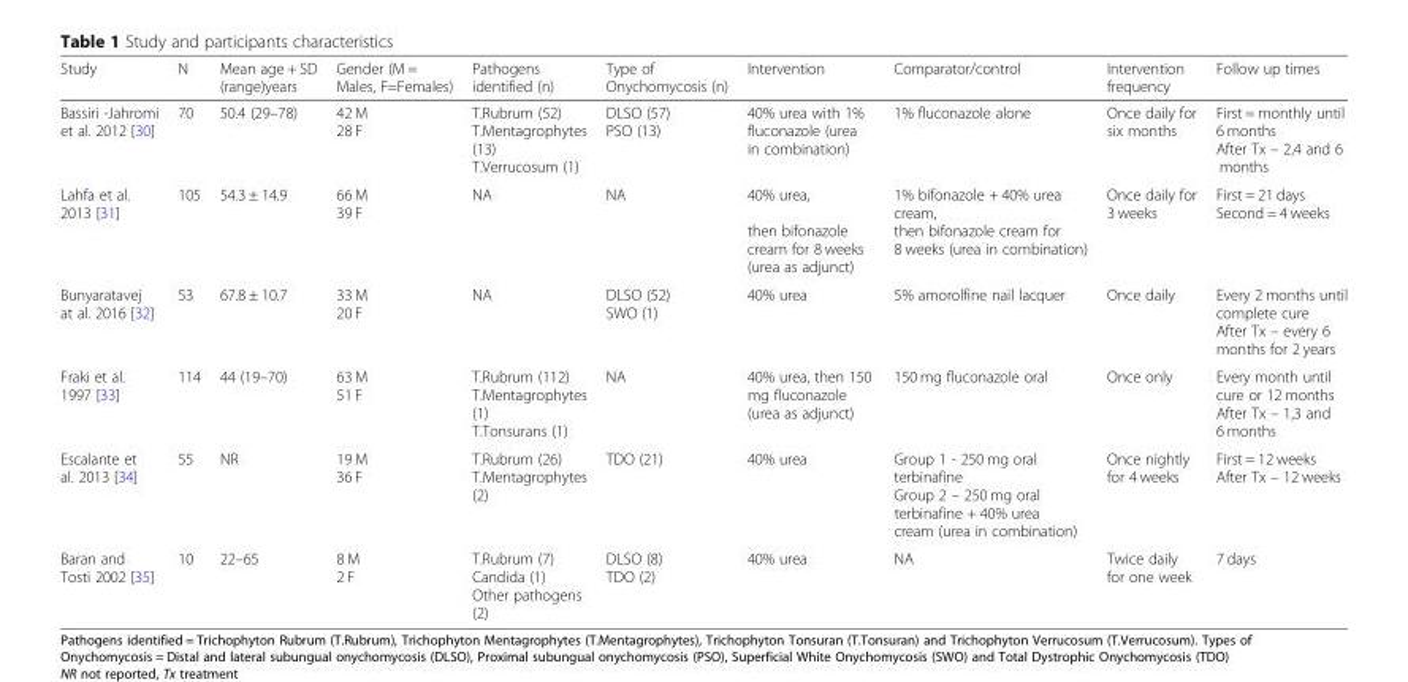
<table><thead><tr><td>Study</td><td>N</td><td>Mean age + SD (range)years</td><td>Gender (M = Males, F=Females)</td><td>Pathogens identified (n)</td><td>Type of Onychomycosis (n)</td><td>Intervention</td><td>Comparator/control</td><td>Intervention frequency</td><td>Follow up times</td></tr></thead><tbody><tr><td>Bassiri -Jahromi et al. 2012 [30]</td><td>70</td><td>50.4 (29–78)</td><td>42 M 28 F</td><td>T.Rubrum (52) T.Mentagrophytes (13) T.Verrucosum (1)</td><td>DLSO (57) PSO (13)</td><td>40% urea with 1% fluconazole (urea in combination)</td><td>1% fluconazole alone</td><td>Once daily for six months</td><td>First = monthly until 6 months After Tx – 2,4 and 6 months</td></tr><tr><td>Lahfa et al. 2013 [31]</td><td>105</td><td>54.3 ± 14.9</td><td>66 M 39 F</td><td>NA</td><td>NA</td><td>40% urea, then bifonazole cream for 8 weeks (urea as adjunct)</td><td>1% bifonazole + 40% urea cream, then bifonazole cream for 8 weeks (urea in combination)</td><td>Once daily for 3 weeks</td><td>First = 21 days Second = 4 weeks</td></tr><tr><td>Bunyaratavej at al. 2016 [32]</td><td>53</td><td>67.8 ± 10.7</td><td>33 M 20 F</td><td>NA</td><td>DLSO (52) SWO (1)</td><td>40% urea</td><td>5% amorolfine nail lacquer</td><td>Once daily</td><td>Every 2 months until complete cure After Tx – every 6 months for 2 years</td></tr><tr><td>Fraki et al. 1997 [33]</td><td>114</td><td>44 (19–70)</td><td>63 M 51 F</td><td>T.Rubrum (112) T.Mentagrophytes (1) T.Tonsurans (1)</td><td>NA</td><td>40% urea, then 150 mg fluconazole (urea as adjunct)</td><td>150 mg fluconazole oral</td><td>Once only</td><td>Every month until cure or 12 months After Tx – 1,3 and 6 months</td></tr><tr><td>Escalante et al. 2013 [34]</td><td>55</td><td>NR</td><td>19 M 36 F</td><td>T.Rubrum (26) T.Mentagrophytes (2)</td><td>TDO (21)</td><td>40% urea</td><td>Group 1 - 250 mg oral terbinafine Group 2 – 250 mg oral terbinafine + 40% urea cream (urea in combination)</td><td>Once nightly for 4 weeks</td><td>First = 12 weeks After Tx – 12 weeks</td></tr><tr><td>Baran and Tosti 2002 [35]</td><td>10</td><td>22–65</td><td>8 M 2 F</td><td>T.Rubrum (7) Candida (1) Other pathogens (2)</td><td>DLSO (8) TDO (2)</td><td>40% urea</td><td>NA</td><td>Twice daily for one week</td><td>7 days</td></tr></tbody></table>